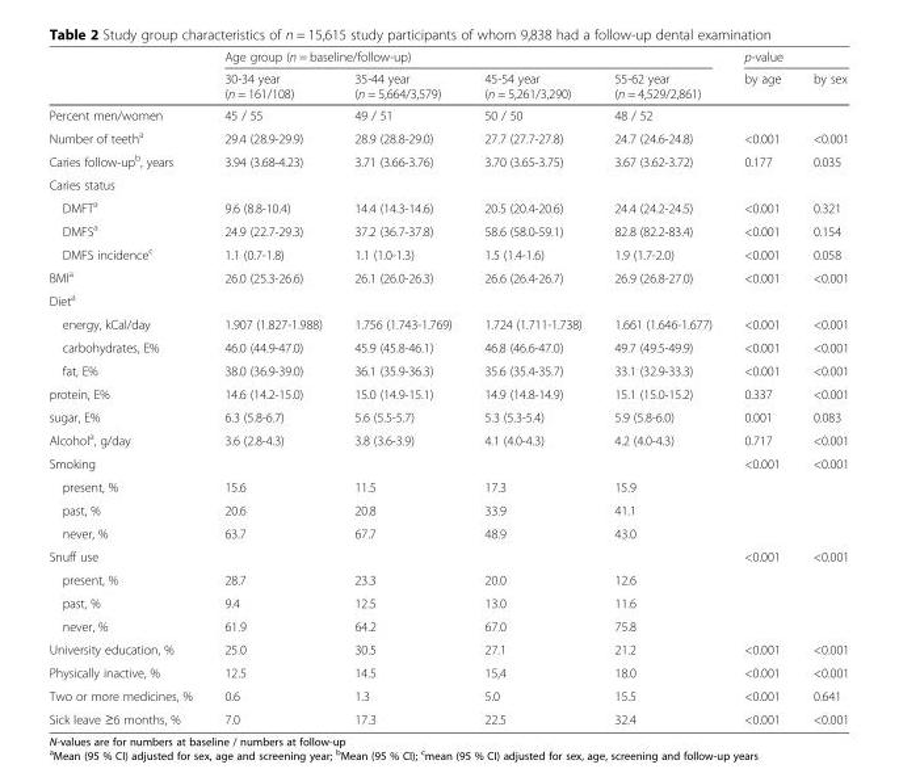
<table><thead><tr><td rowspan="2"></td><td colspan="4">Age group (n = baseline/follow-up)</td><td colspan="2">p-value</td></tr><tr><td>30-34 year (n = 161/108)</td><td>35-44 year (n = 5,664/3,579)</td><td>45-54 year (n = 5,261/3,290)</td><td>55-62 year (n = 4,529/2,861)</td><td>by age</td><td>by sex</td></tr></thead><tbody><tr><td>Percent men/women</td><td>45 / 55</td><td>49 / 51</td><td>50 / 50</td><td>48 / 52</td><td></td><td></td></tr><tr><td>Number of teeth<sup>a</sup></td><td>29.4 (28.9-29.9)</td><td>28.9 (28.8-29.0)</td><td>27.7 (27.7-27.8)</td><td>24.7 (24.6-24.8)</td><td>&lt;0.001</td><td>&lt;0.001</td></tr><tr><td>Caries follow-up<sup>b</sup>, years</td><td>3.94 (3.68-4.23)</td><td>3.71 (3.66-3.76)</td><td>3.70 (3.65-3.75)</td><td>3.67 (3.62-3.72)</td><td>0.177</td><td>0.035</td></tr><tr><td colspan="7">Caries status</td></tr><tr><td>DMFTa</td><td>9.6 (8.8-10.4)</td><td>14.4 (14.3-14.6)</td><td>20.5 (20.4-20.6)</td><td>24.4 (24.2-24.5)</td><td>&lt;0.001</td><td>0.321</td></tr><tr><td>DMFSa</td><td>24.9 (22.7-29.3)</td><td>37.2 (36.7-37.8)</td><td>58.6 (58.0-59.1)</td><td>82.8 (82.2-83.4)</td><td>&lt;0.001</td><td>0.154</td></tr><tr><td>DMFS incidencec</td><td>1.1 (0.7-1.8)</td><td>1.1 (1.0-1.3)</td><td>1.5 (1.4-1.6)</td><td>1.9 (1.7-2.0)</td><td>&lt;0.001</td><td>0.058</td></tr><tr><td>BMI<sup>a</sup></td><td>26.0 (25.3-26.6)</td><td>26.1 (26.0-26.3)</td><td>26.6 (26.4-26.7)</td><td>26.9 (26.8-27.0)</td><td>&lt;0.001</td><td>&lt;0.001</td></tr><tr><td colspan="7">Diet<sup>a</sup></td></tr><tr><td>energy, kCal/day</td><td>1.907 (1.827-1.988)</td><td>1.756 (1.743-1.769)</td><td>1.724 (1.711-1.738)</td><td>1.661 (1.646-1.677)</td><td>&lt;0.001</td><td>&lt;0.001</td></tr><tr><td>carbohydrates, E%</td><td>46.0 (44.9-47.0)</td><td>45.9 (45.8-46.1)</td><td>46.8 (46.6-47.0)</td><td>49.7 (49.5-49.9)</td><td>&lt;0.001</td><td>&lt;0.001</td></tr><tr><td>fat, E%</td><td>38.0 (36.9-39.0)</td><td>36.1 (35.9-36.3)</td><td>35.6 (35.4-35.7)</td><td>33.1 (32.9-33.3)</td><td>&lt;0.001</td><td>&lt;0.001</td></tr><tr><td>protein, E%</td><td>14.6 (14.2-15.0)</td><td>15.0 (14.9-15.1)</td><td>14.9 (14.8-14.9)</td><td>15.1 (15.0-15.2)</td><td>0.337</td><td>&lt;0.001</td></tr><tr><td>sugar, E%</td><td>6.3 (5.8-6.7)</td><td>5.6 (5.5-5.7)</td><td>5.3 (5.3-5.4)</td><td>5.9 (5.8-6.0)</td><td>0.001</td><td>0.083</td></tr><tr><td>Alcohol<sup>a</sup>, g/day</td><td>3.6 (2.8-4.3)</td><td>3.8 (3.6-3.9)</td><td>4.1 (4.0-4.3)</td><td>4.2 (4.0-4.3)</td><td>0.717</td><td>&lt;0.001</td></tr><tr><td>Smoking</td><td></td><td></td><td></td><td></td><td>&lt;0.001</td><td>&lt;0.001</td></tr><tr><td>present, %</td><td>15.6</td><td>11.5</td><td>17.3</td><td>15.9</td><td></td><td></td></tr><tr><td>past, %</td><td>20.6</td><td>20.8</td><td>33.9</td><td>41.1</td><td></td><td></td></tr><tr><td>never, %</td><td>63.7</td><td>67.7</td><td>48.9</td><td>43.0</td><td></td><td></td></tr><tr><td>Snuff use</td><td></td><td></td><td></td><td></td><td>&lt;0.001</td><td>&lt;0.001</td></tr><tr><td>present, %</td><td>28.7</td><td>23.3</td><td>20.0</td><td>12.6</td><td></td><td></td></tr><tr><td>past, %</td><td>9.4</td><td>12.5</td><td>13.0</td><td>11.6</td><td></td><td></td></tr><tr><td>never, %</td><td>61.9</td><td>64.2</td><td>67.0</td><td>75.8</td><td></td><td></td></tr><tr><td>University education, %</td><td>25.0</td><td>30.5</td><td>27.1</td><td>21.2</td><td>&lt;0.001</td><td>&lt;0.001</td></tr><tr><td>Physically inactive, %</td><td>12.5</td><td>14.5</td><td>15,4</td><td>18.0</td><td>&lt;0.001</td><td>&lt;0.001</td></tr><tr><td>Two or more medicines, %</td><td>0.6</td><td>1.3</td><td>5.0</td><td>15.5</td><td>&lt;0.001</td><td>0.641</td></tr><tr><td>Sick leave ≥6 months, %</td><td>7.0</td><td>17.3</td><td>22.5</td><td>32.4</td><td>&lt;0.001</td><td>&lt;0.001</td></tr></tbody></table>